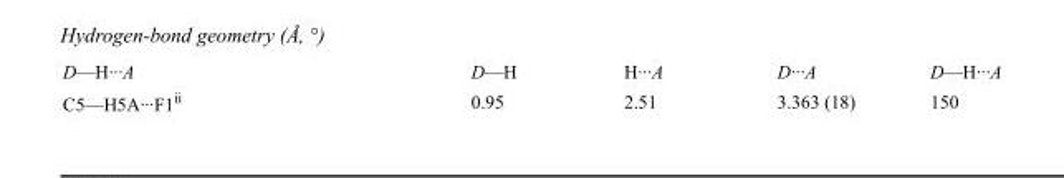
<table><tbody><tr><td>D—H···A</td><td>D—H</td><td>H···A</td><td>D···A</td><td>D—H···A</td></tr><tr><td>C5—H5A···F1<sup>ii</sup></td><td>0.95</td><td>2.51</td><td>3.363 (18)</td><td>150</td></tr></tbody></table>